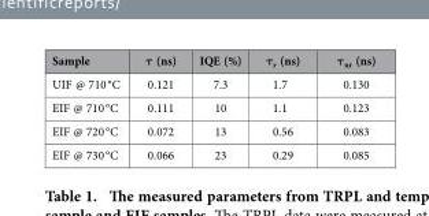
<table><thead><tr><td>Sample</td><td>τ (ns)</td><td>IQE (%)</td><td>τ<sub>r</sub> (ns)</td><td>τ<sub>nr</sub> (ns)</td></tr></thead><tbody><tr><td>UIF @ 710 °C</td><td>0.121</td><td>7.3</td><td>1.7</td><td>0.130</td></tr><tr><td>EIF @ 710 °C</td><td>0.111</td><td>10</td><td>1.1</td><td>0.123</td></tr><tr><td>EIF @ 720 °C</td><td>0.072</td><td>13</td><td>0.56</td><td>0.083</td></tr><tr><td>EIF @ 730 °C</td><td>0.066</td><td>23</td><td>0.29</td><td>0.085</td></tr></tbody></table>